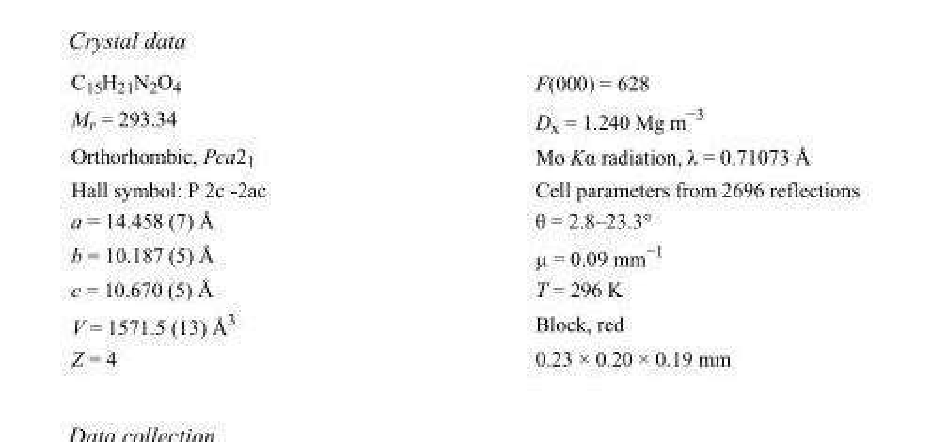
<table><tbody><tr><td>C<sub>15</sub>H<sub>21</sub>N<sub>2</sub>O<sub>4</sub></td><td>F(000) = 628</td></tr><tr><td>M<sub>r</sub> = 293.34</td><td>D<sub>x</sub> = 1.240 Mg m<sup>−3</sup></td></tr><tr><td>Orthorhombic, Pca2<sub>1</sub></td><td>Mo Kα radiation, λ = 0.71073 Å</td></tr><tr><td>Hall symbol: P 2c -2ac</td><td>Cell parameters from 2696 reflections</td></tr><tr><td>a = 14.458 (7) Å</td><td>θ = 2.8–23.3°</td></tr><tr><td>b = 10.187 (5) Å</td><td>µ = 0.09 mm<sup>−1</sup></td></tr><tr><td>c = 10.670 (5) Å</td><td>T = 296 K</td></tr><tr><td>V = 1571.5 (13) Å<sup>3</sup></td><td>Block, red</td></tr><tr><td>Z = 4</td><td>0.23 × 0.20 × 0.19 mm</td></tr></tbody></table>